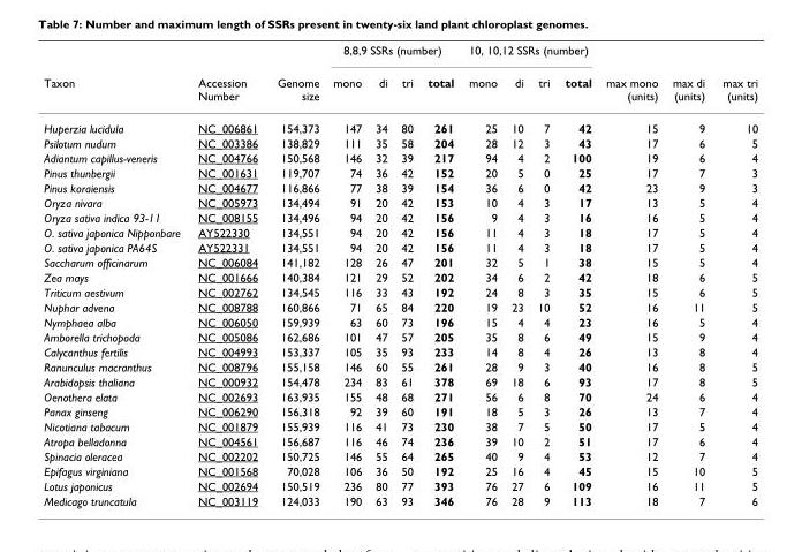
<table><thead><tr><td rowspan="2">Taxon</td><td rowspan="2">Accession Number</td><td rowspan="2">Genome size</td><td colspan="4">8,8,9 SSRs (number)</td><td colspan="4">10, 10,12 SSRs (number)</td><td rowspan="2">max mono (units)</td><td rowspan="2">max di (units)</td><td rowspan="2">max tri (units)</td></tr><tr><td>mono</td><td>di</td><td>tri</td><td>total</td><td>mono</td><td>di</td><td>tri</td><td>total</td></tr></thead><tbody><tr><td>Huperzia lucidula</td><td>NC_006861</td><td>154,373</td><td>147</td><td>34</td><td>80</td><td>261</td><td>25</td><td>10</td><td>7</td><td>42</td><td>15</td><td>9</td><td>10</td></tr><tr><td>Psilotum nudum</td><td>NC_003386</td><td>138,829</td><td>111</td><td>35</td><td>58</td><td>204</td><td>28</td><td>12</td><td>3</td><td>43</td><td>17</td><td>6</td><td>5</td></tr><tr><td>Adiantum capillus-veneris</td><td>NC_004766</td><td>150,568</td><td>146</td><td>32</td><td>39</td><td>217</td><td>94</td><td>4</td><td>2</td><td>100</td><td>19</td><td>6</td><td>4</td></tr><tr><td>Pinus thunbergii</td><td>NC_001631</td><td>119,707</td><td>74</td><td>36</td><td>42</td><td>152</td><td>20</td><td>5</td><td>0</td><td>25</td><td>17</td><td>7</td><td>3</td></tr><tr><td>Pinus koraiensis</td><td>NC_004677</td><td>116,866</td><td>77</td><td>38</td><td>39</td><td>154</td><td>36</td><td>6</td><td>0</td><td>42</td><td>23</td><td>9</td><td>3</td></tr><tr><td>Oryza nivara</td><td>NC_005973</td><td>134,494</td><td>91</td><td>20</td><td>42</td><td>153</td><td>10</td><td>4</td><td>3</td><td>17</td><td>13</td><td>5</td><td>4</td></tr><tr><td>Oryza sativa indica 93-11</td><td>NC_008155</td><td>134,496</td><td>94</td><td>20</td><td>42</td><td>156</td><td>9</td><td>4</td><td>3</td><td>16</td><td>16</td><td>5</td><td>4</td></tr><tr><td>O. sativa japonica Nipponbare</td><td>AY522330</td><td>134,551</td><td>94</td><td>20</td><td>42</td><td>156</td><td>11</td><td>4</td><td>3</td><td>18</td><td>17</td><td>5</td><td>4</td></tr><tr><td>O. sativa japonica PA64S</td><td>AY522331</td><td>134,551</td><td>94</td><td>20</td><td>42</td><td>156</td><td>11</td><td>4</td><td>3</td><td>18</td><td>17</td><td>5</td><td>4</td></tr><tr><td>Saccharum officinarum</td><td>NC_006084</td><td>141,182</td><td>128</td><td>26</td><td>47</td><td>201</td><td>32</td><td>5</td><td>1</td><td>38</td><td>15</td><td>5</td><td>4</td></tr><tr><td>Zea mays</td><td>NC_001666</td><td>140,384</td><td>121</td><td>29</td><td>52</td><td>202</td><td>34</td><td>6</td><td>2</td><td>42</td><td>18</td><td>6</td><td>5</td></tr><tr><td>Triticum aestivum</td><td>NC_002762</td><td>134,545</td><td>116</td><td>33</td><td>43</td><td>192</td><td>24</td><td>8</td><td>3</td><td>35</td><td>15</td><td>6</td><td>5</td></tr><tr><td>Nuphar advena</td><td>NC_008788</td><td>160,866</td><td>71</td><td>65</td><td>84</td><td>220</td><td>19</td><td>23</td><td>10</td><td>52</td><td>16</td><td>11</td><td>5</td></tr><tr><td>Nymphaea alba</td><td>NC_006050</td><td>159,939</td><td>63</td><td>60</td><td>73</td><td>196</td><td>15</td><td>4</td><td>4</td><td>23</td><td>16</td><td>5</td><td>4</td></tr><tr><td>Amborella trichopoda</td><td>NC_005086</td><td>162,686</td><td>101</td><td>47</td><td>57</td><td>205</td><td>35</td><td>8</td><td>6</td><td>49</td><td>15</td><td>9</td><td>4</td></tr><tr><td>Calycanthus fertilis</td><td>NC_004993</td><td>153,337</td><td>105</td><td>35</td><td>93</td><td>233</td><td>14</td><td>8</td><td>4</td><td>26</td><td>13</td><td>8</td><td>4</td></tr><tr><td>Ranunculus macranthus</td><td>NC_008796</td><td>155,158</td><td>146</td><td>60</td><td>55</td><td>261</td><td>28</td><td>9</td><td>3</td><td>40</td><td>16</td><td>8</td><td>5</td></tr><tr><td>Arabidopsis thaliana</td><td>NC_000932</td><td>154,478</td><td>234</td><td>83</td><td>61</td><td>378</td><td>69</td><td>18</td><td>6</td><td>93</td><td>17</td><td>8</td><td>5</td></tr><tr><td>Oenothera elata</td><td>NC_002693</td><td>163,935</td><td>155</td><td>48</td><td>68</td><td>271</td><td>56</td><td>6</td><td>8</td><td>70</td><td>24</td><td>6</td><td>4</td></tr><tr><td>Panax ginseng</td><td>NC_006290</td><td>156,318</td><td>92</td><td>39</td><td>60</td><td>191</td><td>18</td><td>5</td><td>3</td><td>26</td><td>13</td><td>7</td><td>4</td></tr><tr><td>Nicotiana tabacum</td><td>NC_001879</td><td>155,939</td><td>116</td><td>41</td><td>73</td><td>230</td><td>38</td><td>7</td><td>5</td><td>50</td><td>17</td><td>5</td><td>4</td></tr><tr><td>Atropa belladonna</td><td>NC_004561</td><td>156,687</td><td>116</td><td>46</td><td>74</td><td>236</td><td>39</td><td>10</td><td>2</td><td>51</td><td>17</td><td>6</td><td>4</td></tr><tr><td>Spinacia oleracea</td><td>NC_002202</td><td>150,725</td><td>146</td><td>55</td><td>64</td><td>265</td><td>40</td><td>9</td><td>4</td><td>53</td><td>12</td><td>7</td><td>4</td></tr><tr><td>Epifagus virginiana</td><td>NC_001568</td><td>70,028</td><td>106</td><td>36</td><td>50</td><td>192</td><td>25</td><td>16</td><td>4</td><td>45</td><td>15</td><td>10</td><td>5</td></tr><tr><td>Lotus japonicus</td><td>NC_002694</td><td>150,519</td><td>236</td><td>80</td><td>77</td><td>393</td><td>76</td><td>27</td><td>6</td><td>109</td><td>16</td><td>11</td><td>5</td></tr><tr><td>Medicago truncatula</td><td>NC_003119</td><td>124,033</td><td>190</td><td>63</td><td>93</td><td>346</td><td>76</td><td>28</td><td>9</td><td>113</td><td>18</td><td>7</td><td>6</td></tr></tbody></table>